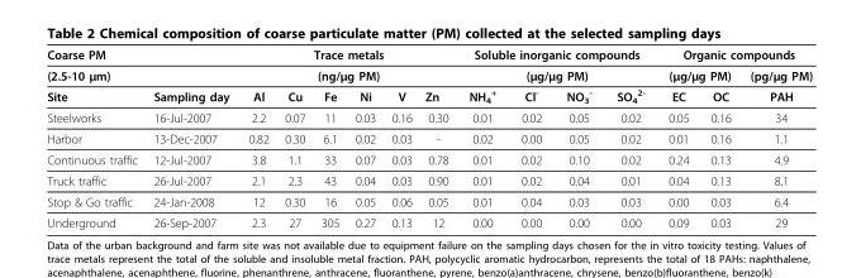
<table><thead><tr><td rowspan="3">Coarse PM (2.5-10 μm) Site</td><td rowspan="3">Sampling day</td><td rowspan="2" colspan="6">Trace metals (ng/μg PM)</td><td rowspan="2" colspan="4">Soluble inorganic compounds (μg/μg PM)</td><td colspan="3">Organic compounds</td></tr><tr><td colspan="2">(μg/μg PM)</td><td rowspan="2">(pg/μg PM) PAH</td></tr><tr><td>Al</td><td>Cu</td><td>Fe</td><td>Ni</td><td>V</td><td>Zn</td><td>NH<sub>4</sub> <sup>+</sup></td><td>Cl<sup>-</sup></td><td>NO<sub>3</sub> <sup>-</sup></td><td>SO<sub>4</sub> <sup>2-</sup></td><td>EC</td><td>OC</td></tr></thead><tbody><tr><td>Steelworks</td><td>16-Jul-2007</td><td>2.2</td><td>0.07</td><td>11</td><td>0.03</td><td>0.16</td><td>0.30</td><td>0.01</td><td>0.02</td><td>0.05</td><td>0.02</td><td>0.05</td><td>0.16</td><td>34</td></tr><tr><td>Harbor</td><td>13-Dec-2007</td><td>0.82</td><td>0.30</td><td>6.1</td><td>0.02</td><td>0.03</td><td>-</td><td>0.02</td><td>0.00</td><td>0.05</td><td>0.02</td><td>0.01</td><td>0.16</td><td>1.1</td></tr><tr><td>Continuous traffic</td><td>12-Jul-2007</td><td>3.8</td><td>1.1</td><td>33</td><td>0.07</td><td>0.03</td><td>0.78</td><td>0.01</td><td>0.02</td><td>0.10</td><td>0.02</td><td>0.24</td><td>0.13</td><td>4.9</td></tr><tr><td>Truck traffic</td><td>26-Jul-2007</td><td>2.1</td><td>2.3</td><td>43</td><td>0.04</td><td>0.03</td><td>0.90</td><td>0.01</td><td>0.02</td><td>0.04</td><td>0.01</td><td>0.04</td><td>0.13</td><td>8.1</td></tr><tr><td>Stop &amp; Go traffic</td><td>24-Jan-2008</td><td>12</td><td>0.30</td><td>16</td><td>0.05</td><td>0.06</td><td>0.05</td><td>0.01</td><td>0.04</td><td>0.03</td><td>0.03</td><td>0.00</td><td>0.03</td><td>6.4</td></tr><tr><td>Underground</td><td>26-Sep-2007</td><td>2.3</td><td>27</td><td>305</td><td>0.27</td><td>0.13</td><td>12</td><td>0.00</td><td>0.00</td><td>0.00</td><td>0.00</td><td>0.09</td><td>0.03</td><td>29</td></tr></tbody></table>